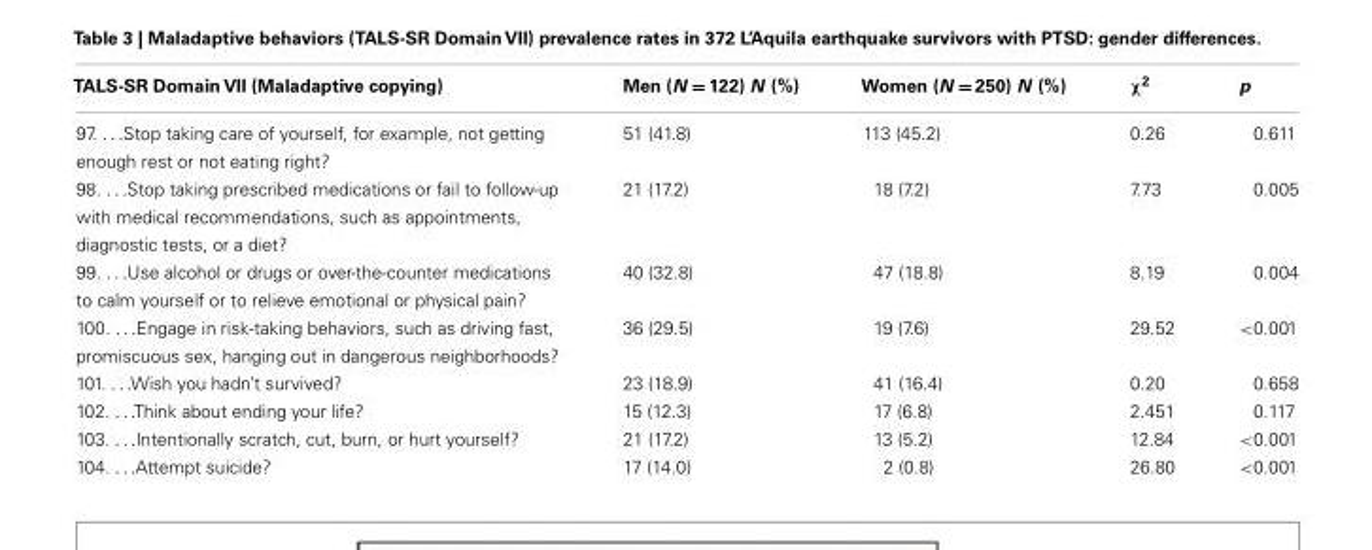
<table><thead><tr><td>TALS-SR Domain VII (Maladaptive copying)</td><td>Men (N = 122) N (%)</td><td>Women (N = 250) N (%)</td><td>χ<sup>2</sup></td><td>p</td></tr></thead><tbody><tr><td>97. . . .Stop taking care of yourself, for example, not getting enough rest or not eating right?</td><td>51 (41.8)</td><td>113 (45.2)</td><td>0.26</td><td>0.611</td></tr><tr><td>98. . . .Stop taking prescribed medications or fail to follow-up with medical recommendations, such as appointments, diagnostic tests, or a diet?</td><td>21 (17.2)</td><td>18 (7.2)</td><td>7.73</td><td>0.005</td></tr><tr><td>99. . . .Use alcohol or drugs or over-the-counter medications to calm yourself or to relieve emotional or physical pain?</td><td>40 (32.8)</td><td>47 (18.8)</td><td>8.19</td><td>0.004</td></tr><tr><td>100. . . .Engage in risk-taking behaviors, such as driving fast, promiscuous sex, hanging out in dangerous neighborhoods?</td><td>36 (29.5)</td><td>19 (7.6)</td><td>29.52</td><td>&lt;0.001</td></tr><tr><td>101. . . .Wish you hadn’t survived?</td><td>23 (18.9)</td><td>41 (16.4)</td><td>0.20</td><td>0.658</td></tr><tr><td>102. . . .Think about ending your life?</td><td>15 (12.3)</td><td>17 (6.8)</td><td>2.451</td><td>0.117</td></tr><tr><td>103. . . .Intentionally scratch, cut, burn, or hurt yourself?</td><td>21 (17.2)</td><td>13 (5.2)</td><td>12.84</td><td>&lt;0.001</td></tr><tr><td>104. . . .Attempt suicide?</td><td>17 (14.0)</td><td>2 (0.8)</td><td>26.80</td><td>&lt;0.001</td></tr></tbody></table>